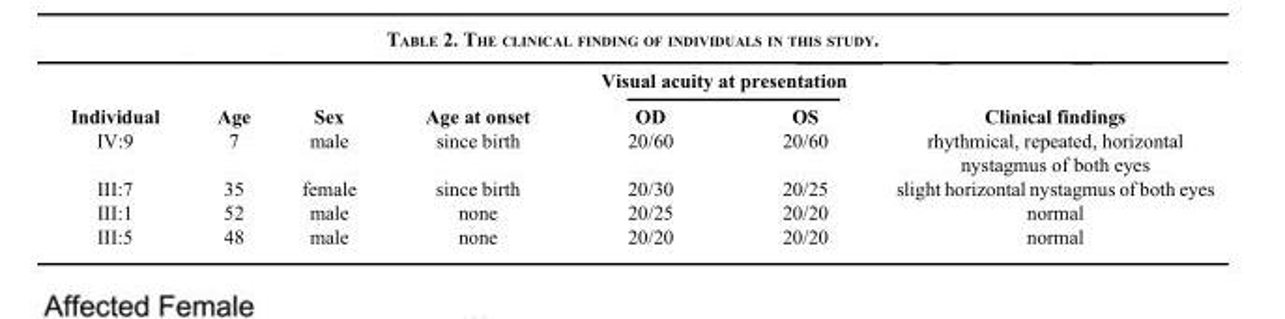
<table><thead><tr><td rowspan="2">Individual</td><td rowspan="2">Age</td><td rowspan="2">Sex</td><td rowspan="2">Age at onset</td><td colspan="2">Visual acuity at presentation</td><td rowspan="2">Clinical findings</td></tr><tr><td>OD</td><td>OS</td></tr></thead><tbody><tr><td>IV:9</td><td>7</td><td>male</td><td>since birth</td><td>20/60</td><td>20/60</td><td>rhythmical, repeated, horizontal nystagmus of both eyes</td></tr><tr><td>III:7</td><td>35</td><td>female</td><td>since birth</td><td>20/30</td><td>20/25</td><td>slight horizontal nystagmus of both eyes</td></tr><tr><td>III:1</td><td>52</td><td>male</td><td>none</td><td>20/25</td><td>20/20</td><td>normal</td></tr><tr><td>III:5</td><td>48</td><td>male</td><td>none</td><td>20/20</td><td>20/20</td><td>normal</td></tr></tbody></table>